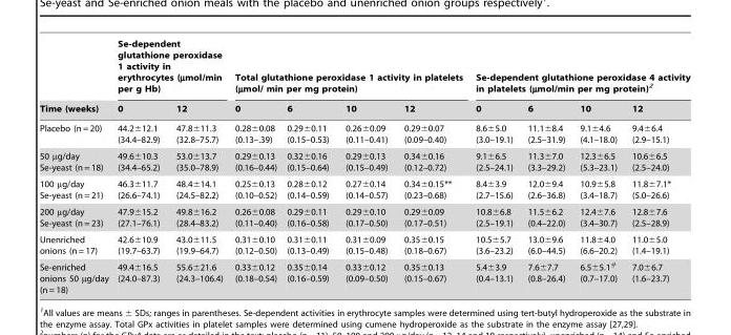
<table><thead><tr><td rowspan="2">Time (weeks)</td><td colspan="2">Se-dependent glutathione peroxidase 1 activity in erythrocytes (µmol/min per g Hb)</td><td colspan="4">Total glutathione peroxidase 1 activity in platelets (µmol/ min per mg protein)</td><td colspan="4">Se-dependent glutathione peroxidase 4 activity in platelets (µmol/min per mg protein)<sup>2</sup></td></tr><tr><td>0</td><td>12</td><td>0</td><td>6</td><td>10</td><td>12</td><td>0</td><td>6</td><td>10</td><td>12</td></tr></thead><tbody><tr><td>Placebo (n = 20)</td><td>44.2±12.1 (34.4–82.9)</td><td>47.8±11.3 (32.8–75.7)</td><td>0.28±0.08 (0.13–.39)</td><td>0.29±0.11 (0.15–0.53)</td><td>0.26±0.09 (0.11–0.41)</td><td>0.29±0.07 (0.09–0.40)</td><td>8.6±5.0 (3.0–19.1)</td><td>11.1±8.4 (2.5–31.9)</td><td>9.1±4.6 (4.1–18.0)</td><td>9.4±6.4 (2.9–15.1)</td></tr><tr><td>50 µg/day Se-yeast (n = 18)</td><td>49.6±10.3 (34.4–65.2)</td><td>53.0±13.7 (35.0–78.9)</td><td>0.29±0.13 (0.16–0.44)</td><td>0.32±0.16 (0.15–0.64)</td><td>0.29±0.13 (0.15–0.49)</td><td>0.34±0.16 (0.12–0.72)</td><td>9.1±6.5 (2.5–24.1)</td><td>11.3±7.0 (3.3–29.2)</td><td>12.3±6.5 (5.3–23.1)</td><td>10.6±6.5 (2.5–24.0)</td></tr><tr><td>100 µg/day Se-yeast (n = 21)</td><td>46.3±11.7 (26.6–74.1)</td><td>48.4±14.1 (24.5–82.2)</td><td>0.25±0.13 (0.10–0.52)</td><td>0.28±0.12 (0.14–0.59)</td><td>0.27±0.14 (0.14–0.57)</td><td>0.34±0.15** (0.23–0.68)</td><td>8.4±3.9 (2.7–15.6)</td><td>12.0±9.4 (2.6–36.8)</td><td>10.9±5.8 (3.4–18.7)</td><td>11.8±7.1* (5.0–26.6)</td></tr><tr><td>200 µg/day Se-yeast (n = 23)</td><td>47.9±15.2 (27.1–76.1)</td><td>49.8±16.2 (28.4–83.2)</td><td>0.26±0.08 (0.11–0.40)</td><td>0.29±0.11 (0.16–0.58)</td><td>0.29±0.10 (0.17–0.50)</td><td>0.29±0.09 (0.17–0.51)</td><td>10.8±6.8 (2.5–19.1)</td><td>11.5±6.2 (0.4–22.0)</td><td>12.4±7.6 (3.4–30.7)</td><td>12.8±7.6 (2.5–28.9)</td></tr><tr><td>Unenriched onions (n = 17)</td><td>42.6±10.9 (19.7–63.7)</td><td>43.0±11.5 (19.9–64.7)</td><td>0.31±0.10 (0.12–0.50)</td><td>0.31±0.11 (0.13–0.49)</td><td>0.31±0.09 (0.15–0.48)</td><td>0.35±0.15 (0.18–0.67)</td><td>10.5±5.7 (3.6–23.2)</td><td>13.0±9.6 (6.0–44.5)</td><td>11.8±4.0 (6.6–20.2)</td><td>11.0±5.0 (1.4–19.1)</td></tr><tr><td>Se-enriched onions 50 µg/day (n = 18)</td><td>49.4±16.5 (24.0–87.3)</td><td>55.6±21.6 (24.3–106.4)</td><td>0.33±0.12 (0.18–0.54)</td><td>0.35±0.14 (0.16–0.59)</td><td>0.33±0.12 (0.09–0.50)</td><td>0.35±0.13 (0.15–0.67)</td><td>5.4±3.9 (0.4–13.1)</td><td>7.6±7.7 (0.8–26.4)</td><td>6.5±5.1<sup>#</sup> (0.7–17.0)</td><td>7.0±6.7 (1.6–23.7)</td></tr></tbody></table>